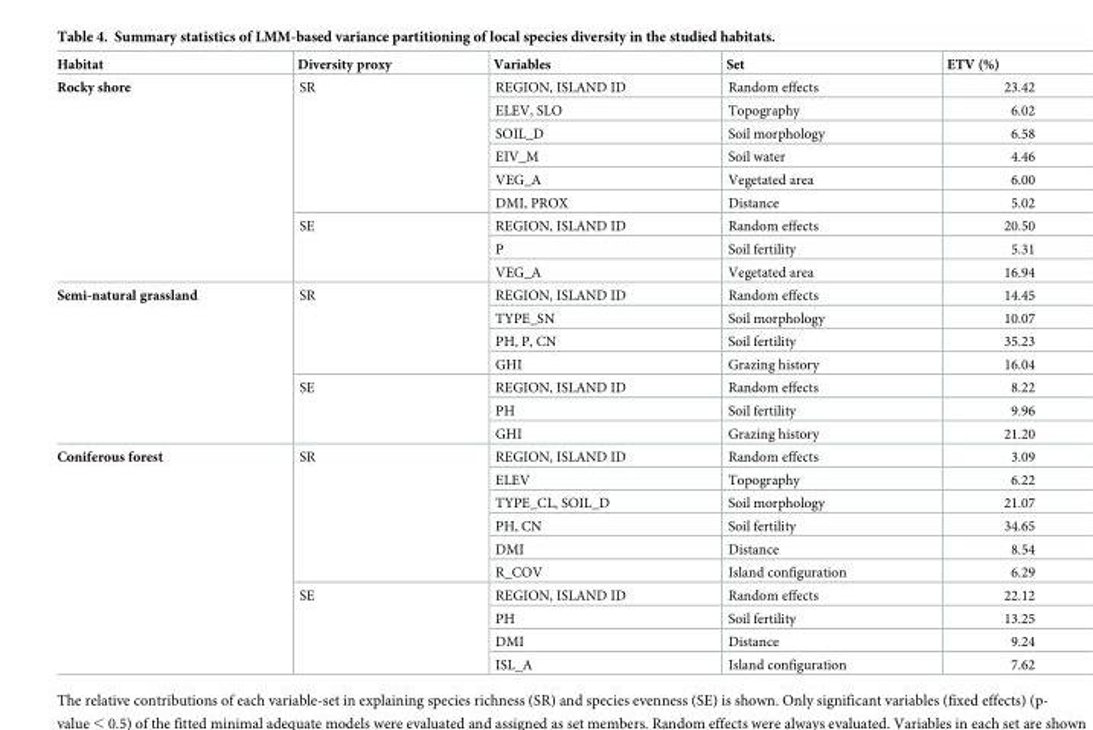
<table><thead><tr><td>Habitat</td><td>Diversity proxy</td><td>Variables</td><td>Set</td><td>ETV (%)</td></tr></thead><tbody><tr><td rowspan="9">Rocky shore</td><td rowspan="6">SR</td><td>REGION, ISLAND ID</td><td>Random effects</td><td>23.42</td></tr><tr><td>ELEV, SLO</td><td>Topography</td><td>6.02</td></tr><tr><td>SOIL_D</td><td>Soil morphology</td><td>6.58</td></tr><tr><td>EIV_M</td><td>Soil water</td><td>4.46</td></tr><tr><td>VEG_A</td><td>Vegetated area</td><td>6.00</td></tr><tr><td>DMI, PROX</td><td>Distance</td><td>5.02</td></tr><tr><td rowspan="3">SE</td><td>REGION, ISLAND ID</td><td>Random effects</td><td>20.50</td></tr><tr><td>P</td><td>Soil fertility</td><td>5.31</td></tr><tr><td>VEG_A</td><td>Vegetated area</td><td>16.94</td></tr><tr><td rowspan="7">Semi-natural grassland</td><td rowspan="4">SR</td><td>REGION, ISLAND ID</td><td>Random effects</td><td>14.45</td></tr><tr><td>TYPE_SN</td><td>Soil morphology</td><td>10.07</td></tr><tr><td>PH, P, CN</td><td>Soil fertility</td><td>35.23</td></tr><tr><td>GHI</td><td>Grazing history</td><td>16.04</td></tr><tr><td rowspan="3">SE</td><td>REGION, ISLAND ID</td><td>Random effects</td><td>8.22</td></tr><tr><td>PH</td><td>Soil fertility</td><td>9.96</td></tr><tr><td>GHI</td><td>Grazing history</td><td>21.20</td></tr><tr><td rowspan="10">Coniferous forest</td><td rowspan="6">SR</td><td>REGION, ISLAND ID</td><td>Random effects</td><td>3.09</td></tr><tr><td>ELEV</td><td>Topography</td><td>6.22</td></tr><tr><td>TYPE_CL, SOIL_D</td><td>Soil morphology</td><td>21.07</td></tr><tr><td>PH, CN</td><td>Soil fertility</td><td>34.65</td></tr><tr><td>DMI</td><td>Distance</td><td>8.54</td></tr><tr><td>R_COV</td><td>Island configuration</td><td>6.29</td></tr><tr><td rowspan="4">SE</td><td>REGION, ISLAND ID</td><td>Random effects</td><td>22.12</td></tr><tr><td>PH</td><td>Soil fertility</td><td>13.25</td></tr><tr><td>DMI</td><td>Distance</td><td>9.24</td></tr><tr><td>ISL_A</td><td>Island configuration</td><td>7.62</td></tr></tbody></table>